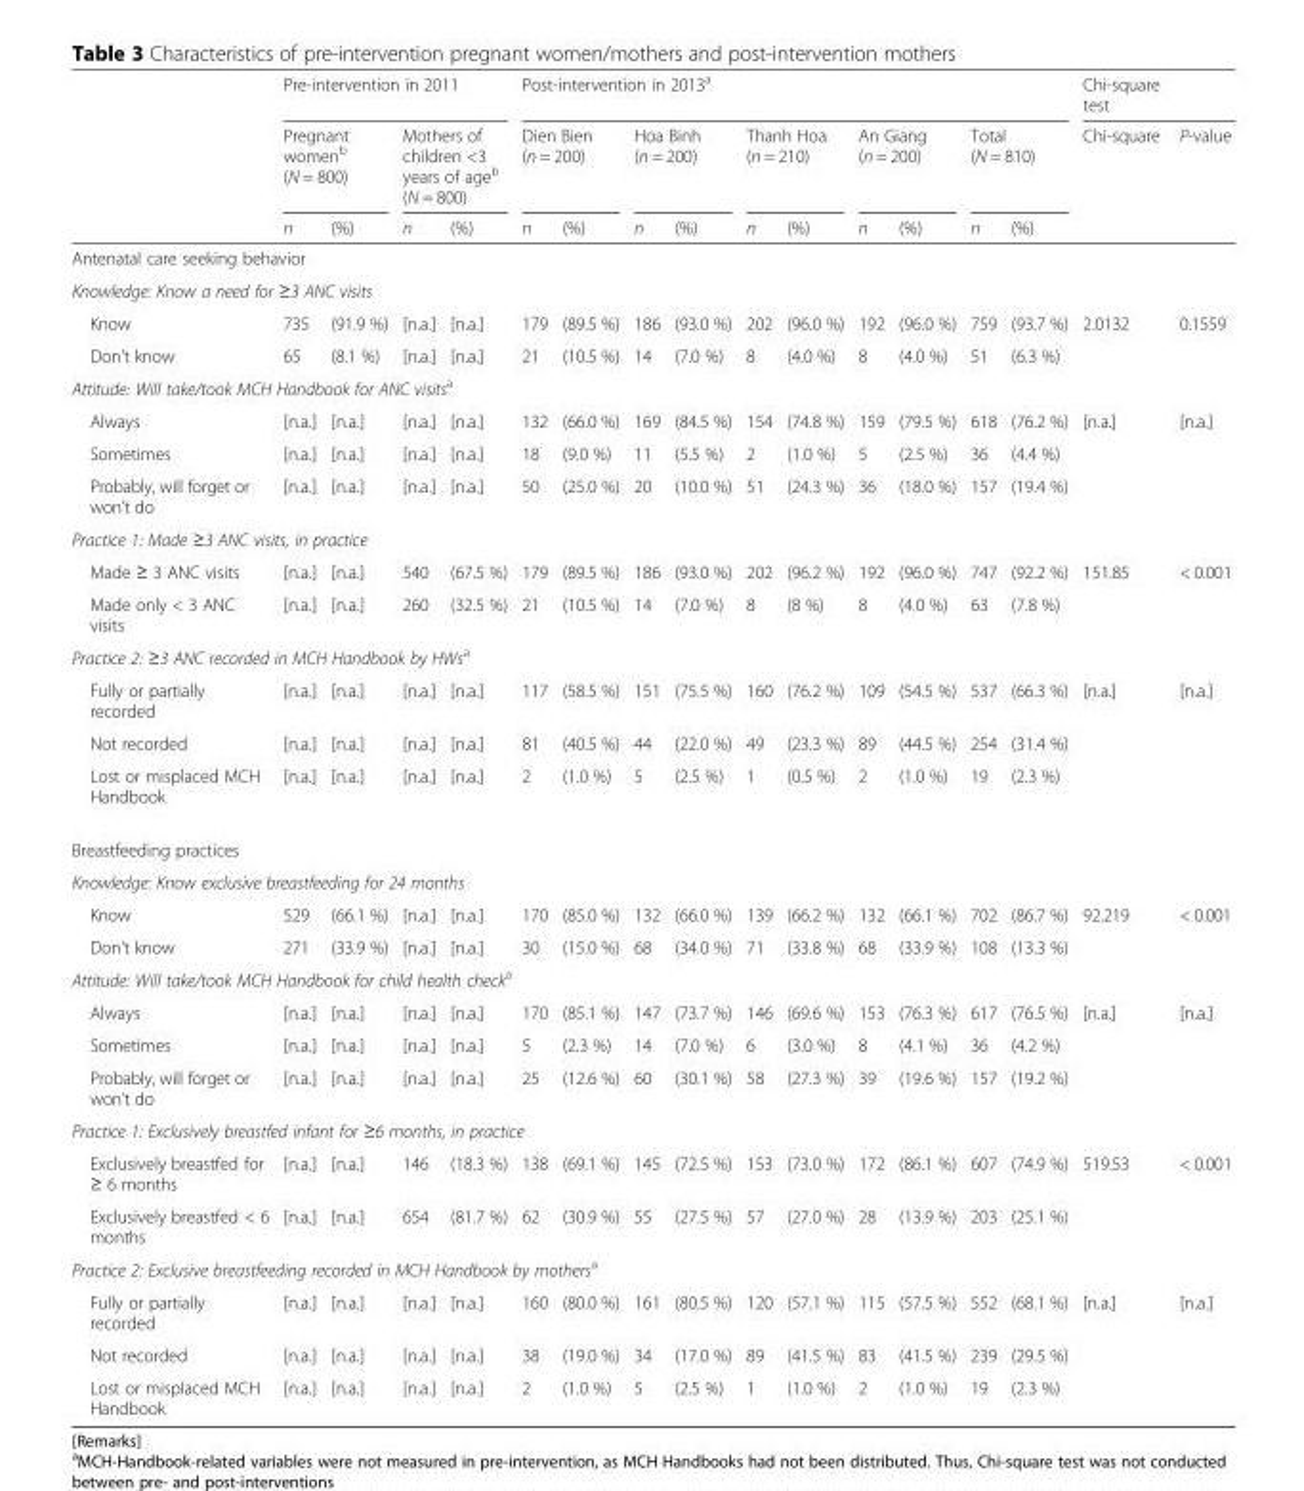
<table><thead><tr><td rowspan="3"></td><td colspan="4">Pre-intervention in 2011</td><td colspan="10">Post-intervention in 2013<sup>a</sup></td><td colspan="2">Chi-square test</td></tr><tr><td colspan="2">Pregnant women<sup>b</sup> (N = 800)</td><td colspan="2">Mothers of children &lt;3 years of age<sup>b</sup> (N = 800)</td><td colspan="2">Dien Bien (n = 200)</td><td colspan="2">Hoa Binh (n = 200)</td><td colspan="2">Thanh Hoa (n = 210)</td><td colspan="2">An Giang (n = 200)</td><td colspan="2">Total (N = 810)</td><td rowspan="2">Chi-square</td><td rowspan="2">P-value</td></tr><tr><td>n</td><td>(%)</td><td>n</td><td>(%)</td><td>n</td><td>(%)</td><td>n</td><td>(%)</td><td>n</td><td>(%)</td><td>n</td><td>(%)</td><td>n</td><td>(%)</td></tr></thead><tbody><tr><td colspan="17">Antenatal care seeking behavior</td></tr><tr><td colspan="17">Knowledge: Know a need for ≥3 ANC visits</td></tr><tr><td>Know</td><td>735</td><td>(91.9 %)</td><td>[n.a.]</td><td>[n.a.]</td><td>179</td><td>(89.5 %)</td><td>186</td><td>(93.0 %)</td><td>202</td><td>(96.0 %)</td><td>192</td><td>(96.0 %)</td><td>759</td><td>(93.7 %)</td><td>2.0132</td><td>0.1559</td></tr><tr><td>Don’t know</td><td>65</td><td>(8.1 %)</td><td>[n.a.]</td><td>[n.a.]</td><td>21</td><td>(10.5 %)</td><td>14</td><td>(7.0 %)</td><td>8</td><td>(4.0 %)</td><td>8</td><td>(4.0 %)</td><td>51</td><td>(6.3 %)</td><td></td><td></td></tr><tr><td colspan="17">Attitude: Will take/took MCH Handbook for ANC visits<sup>a</sup></td></tr><tr><td>Always</td><td>[n.a.]</td><td>[n.a.]</td><td>[n.a.]</td><td>[n.a.]</td><td>132</td><td>(66.0 %)</td><td>169</td><td>(84.5 %)</td><td>154</td><td>(74.8 %)</td><td>159</td><td>(79.5 %)</td><td>618</td><td>(76.2 %)</td><td>[n.a.]</td><td>[n.a.]</td></tr><tr><td>Sometimes</td><td>[n.a.]</td><td>[n.a.]</td><td>[n.a.]</td><td>[n.a.]</td><td>18</td><td>(9.0 %)</td><td>11</td><td>(5.5 %)</td><td>2</td><td>(1.0 %)</td><td>5</td><td>(2.5 %)</td><td>36</td><td>(4.4 %)</td><td></td><td></td></tr><tr><td>Probably, will forget or won’t do</td><td>[n.a.]</td><td>[n.a.]</td><td>[n.a.]</td><td>[n.a.]</td><td>50</td><td>(25.0 %)</td><td>20</td><td>(10.0 %)</td><td>51</td><td>(24.3 %)</td><td>36</td><td>(18.0 %)</td><td>157</td><td>(19.4 %)</td><td></td><td></td></tr><tr><td colspan="17">Practice 1: Made ≥3 ANC visits, in practice</td></tr><tr><td>Made ≥ 3 ANC visits</td><td>[n.a.]</td><td>[n.a.]</td><td>540</td><td>(67.5 %)</td><td>179</td><td>(89.5 %)</td><td>186</td><td>(93.0 %)</td><td>202</td><td>(96.2 %)</td><td>192</td><td>(96.0 %)</td><td>747</td><td>(92.2 %)</td><td>151.85</td><td>&lt; 0.001</td></tr><tr><td>Made only &lt; 3 ANC visits</td><td>[n.a.]</td><td>[n.a.]</td><td>260</td><td>(32.5 %)</td><td>21</td><td>(10.5 %)</td><td>14</td><td>(7.0 %)</td><td>8</td><td>(8 %)</td><td>8</td><td>(4.0 %)</td><td>63</td><td>(7.8 %)</td><td></td><td></td></tr><tr><td colspan="17">Practice 2: ≥3 ANC recorded in MCH Handbook by HWs<sup>a</sup></td></tr><tr><td>Fully or partially recorded</td><td>[n.a.]</td><td>[n.a.]</td><td>[n.a.]</td><td>[n.a.]</td><td>117</td><td>(58.5 %)</td><td>151</td><td>(75.5 %)</td><td>160</td><td>(76.2 %)</td><td>109</td><td>(54.5 %)</td><td>537</td><td>(66.3 %)</td><td>[n.a.]</td><td>[n.a.]</td></tr><tr><td>Not recorded</td><td>[n.a.]</td><td>[n.a.]</td><td>[n.a.]</td><td>[n.a.]</td><td>81</td><td>(40.5 %)</td><td>44</td><td>(22.0 %)</td><td>49</td><td>(23.3 %)</td><td>89</td><td>(44.5 %)</td><td>254</td><td>(31.4 %)</td><td></td><td></td></tr><tr><td>Lost or misplaced MCH Handbook</td><td>[n.a.]</td><td>[n.a.]</td><td>[n.a.]</td><td>[n.a.]</td><td>2</td><td>(1.0 %)</td><td>5</td><td>(2.5 %)</td><td>1</td><td>(0.5 %)</td><td>2</td><td>(1.0 %)</td><td>19</td><td>(2.3 %)</td><td></td><td></td></tr><tr><td colspan="17">Breastfeeding practices</td></tr><tr><td colspan="17">Knowledge: Know exclusive breastfeeding for 24 months</td></tr><tr><td>Know</td><td>529</td><td>(66.1 %)</td><td>[n.a.]</td><td>[n.a.]</td><td>170</td><td>(85.0 %)</td><td>132</td><td>(66.0 %)</td><td>139</td><td>(66.2 %)</td><td>132</td><td>(66.1 %)</td><td>702</td><td>(86.7 %)</td><td>92.219</td><td>&lt; 0.001</td></tr><tr><td>Don’t know</td><td>271</td><td>(33.9 %)</td><td>[n.a.]</td><td>[n.a.]</td><td>30</td><td>(15.0 %)</td><td>68</td><td>(34.0 %)</td><td>71</td><td>(33.8 %)</td><td>68</td><td>(33.9 %)</td><td>108</td><td>(13.3 %)</td><td></td><td></td></tr><tr><td colspan="17">Attitude: Will take/took MCH Handbook for child health check<sup>a</sup></td></tr><tr><td>Always</td><td>[n.a.]</td><td>[n.a.]</td><td>[n.a.]</td><td>[n.a.]</td><td>170</td><td>(85.1 %)</td><td>147</td><td>(73.7 %)</td><td>146</td><td>(69.6 %)</td><td>153</td><td>(76.3 %)</td><td>617</td><td>(76.5 %)</td><td>[n.a.]</td><td>[n.a.]</td></tr><tr><td>Sometimes</td><td>[n.a.]</td><td>[n.a.]</td><td>[n.a.]</td><td>[n.a.]</td><td>5</td><td>(2.3 %)</td><td>14</td><td>(7.0 %)</td><td>6</td><td>(3.0 %)</td><td>8</td><td>(4.1 %)</td><td>36</td><td>(4.2 %)</td><td></td><td></td></tr><tr><td>Probably, will forget or won’t do</td><td>[n.a.]</td><td>[n.a.]</td><td>[n.a.]</td><td>[n.a.]</td><td>25</td><td>(12.6 %)</td><td>60</td><td>(30.1 %)</td><td>58</td><td>(27.3 %)</td><td>39</td><td>(19.6 %)</td><td>157</td><td>(19.2 %)</td><td></td><td></td></tr><tr><td colspan="17">Practice 1: Exclusively breastfed infant for ≥6 months, in practice</td></tr><tr><td>Exclusively breastfed for ≥ 6 months</td><td>[n.a.]</td><td>[n.a.]</td><td>146</td><td>(18.3 %)</td><td>138</td><td>(69.1 %)</td><td>145</td><td>(72.5 %)</td><td>153</td><td>(73.0 %)</td><td>172</td><td>(86.1 %)</td><td>607</td><td>(74.9 %)</td><td>519.53</td><td>&lt; 0.001</td></tr><tr><td>Exclusively breastfed &lt; 6 months</td><td>[n.a.]</td><td>[n.a.]</td><td>654</td><td>(81.7 %)</td><td>62</td><td>(30.9 %)</td><td>55</td><td>(27.5 %)</td><td>57</td><td>(27.0 %)</td><td>28</td><td>(13.9 %)</td><td>203</td><td>(25.1 %)</td><td></td><td></td></tr><tr><td colspan="17">Practice 2: Exclusive breastfeeding recorded in MCH Handbook by mothers<sup>a</sup></td></tr><tr><td>Fully or partially recorded</td><td>[n.a.]</td><td>[n.a.]</td><td>[n.a.]</td><td>[n.a.]</td><td>160</td><td>(80.0 %)</td><td>161</td><td>(80.5 %)</td><td>120</td><td>(57.1 %)</td><td>115</td><td>(57.5 %)</td><td>552</td><td>(68.1 %)</td><td>[n.a.]</td><td>[n.a.]</td></tr><tr><td>Not recorded</td><td>[n.a.]</td><td>[n.a.]</td><td>[n.a.]</td><td>[n.a.]</td><td>38</td><td>(19.0 %)</td><td>34</td><td>(17.0 %)</td><td>89</td><td>(41.5 %)</td><td>83</td><td>(41.5 %)</td><td>239</td><td>(29.5 %)</td><td></td><td></td></tr><tr><td>Lost or misplaced MCH Handbook</td><td>[n.a.]</td><td>[n.a.]</td><td>[n.a.]</td><td>[n.a.]</td><td>2</td><td>(1.0 %)</td><td>5</td><td>(2.5 %)</td><td>1</td><td>(1.0 %)</td><td>2</td><td>(1.0 %)</td><td>19</td><td>(2.3 %)</td><td></td><td></td></tr></tbody></table>